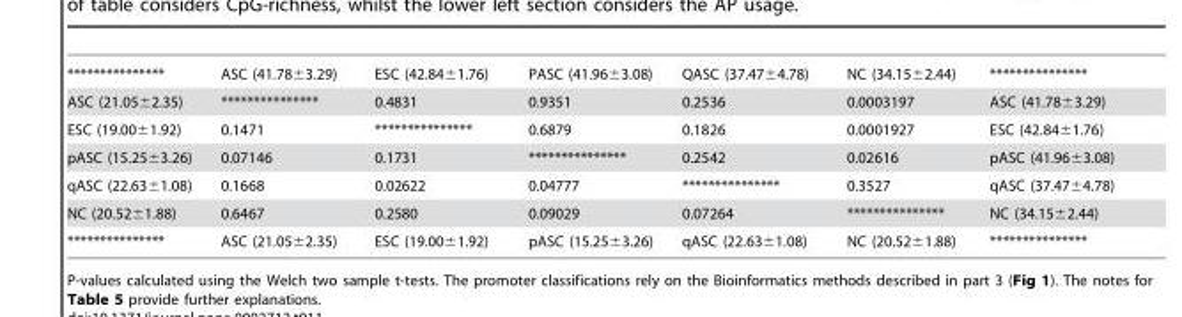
<table><tbody><tr><td>***************</td><td>ASC (41.78±3.29)</td><td>ESC (42.84±1.76)</td><td>PASC (41.96±3.08)</td><td>QASC (37.47±4.78)</td><td>NC (34.15±2.44)</td><td>***************</td></tr><tr><td>ASC (21.05±2.35)</td><td>***************</td><td>0.4831</td><td>0.9351</td><td>0.2536</td><td>0.0003197</td><td>ASC (41.78±3.29)</td></tr><tr><td>ESC (19.00±1.92)</td><td>0.1471</td><td>***************</td><td>0.6879</td><td>0.1826</td><td>0.0001927</td><td>ESC (42.84±1.76)</td></tr><tr><td>pASC (15.25±3.26)</td><td>0.07146</td><td>0.1731</td><td>***************</td><td>0.2542</td><td>0.02616</td><td>pASC (41.96±3.08)</td></tr><tr><td>qASC (22.63±1.08)</td><td>0.1668</td><td>0.02622</td><td>0.04777</td><td>***************</td><td>0.3527</td><td>qASC (37.47±4.78)</td></tr><tr><td>NC (20.52±1.88)</td><td>0.6467</td><td>0.2580</td><td>0.09029</td><td>0.07264</td><td>***************</td><td>NC (34.15±2.44)</td></tr><tr><td>***************</td><td>ASC (21.05±2.35)</td><td>ESC (19.00±1.92)</td><td>pASC (15.25±3.26)</td><td>qASC (22.63±1.08)</td><td>NC (20.52±1.88)</td><td>***************</td></tr></tbody></table>